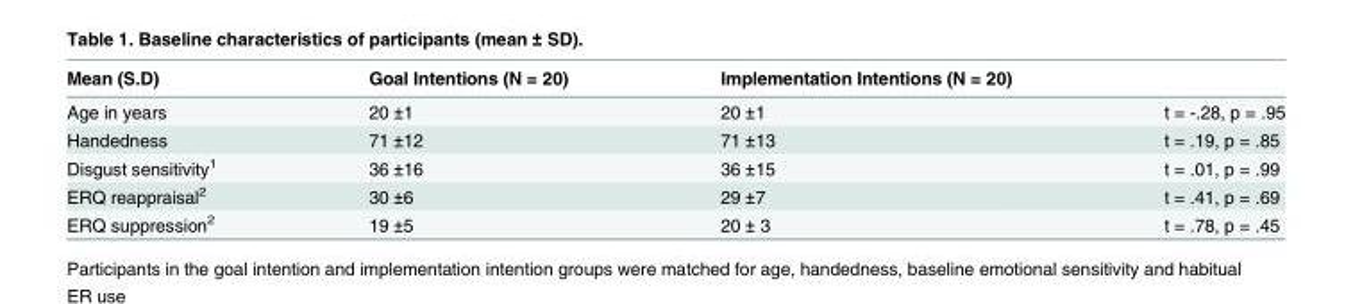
<table><thead><tr><td>Mean (S.D)</td><td>Goal Intentions (N = 20)</td><td>Implementation Intentions (N = 20)</td><td></td></tr></thead><tbody><tr><td>Age in years</td><td>20 ±1</td><td>20 ±1</td><td>t = -.28, p = .95</td></tr><tr><td>Handedness</td><td>71 ±12</td><td>71 ±13</td><td>t = .19, p = .85</td></tr><tr><td>Disgust sensitivity<sup>1</sup></td><td>36 ±16</td><td>36 ±15</td><td>t = .01, p = .99</td></tr><tr><td>ERQ reappraisal<sup>2</sup></td><td>30 ±6</td><td>29 ±7</td><td>t = .41, p = .69</td></tr><tr><td>ERQ suppression<sup>2</sup></td><td>19 ±5</td><td>20 ± 3</td><td>t = .78, p = .45</td></tr></tbody></table>